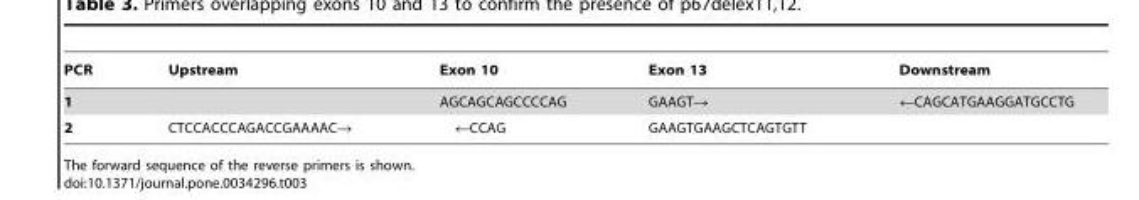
<table><thead><tr><td>PCR</td><td>Upstream</td><td>Exon 10</td><td>Exon 13</td><td>Downstream</td></tr></thead><tbody><tr><td>1</td><td></td><td>AGCAGCAGCCCCAG</td><td>GAAGT→</td><td>←CAGCATGAAGGATGCCTG</td></tr><tr><td>2</td><td>CTCCACCCAGACCGAAAAC→</td><td>←CCAG</td><td>GAAGTGAAGCTCAGTGTT</td><td></td></tr></tbody></table>